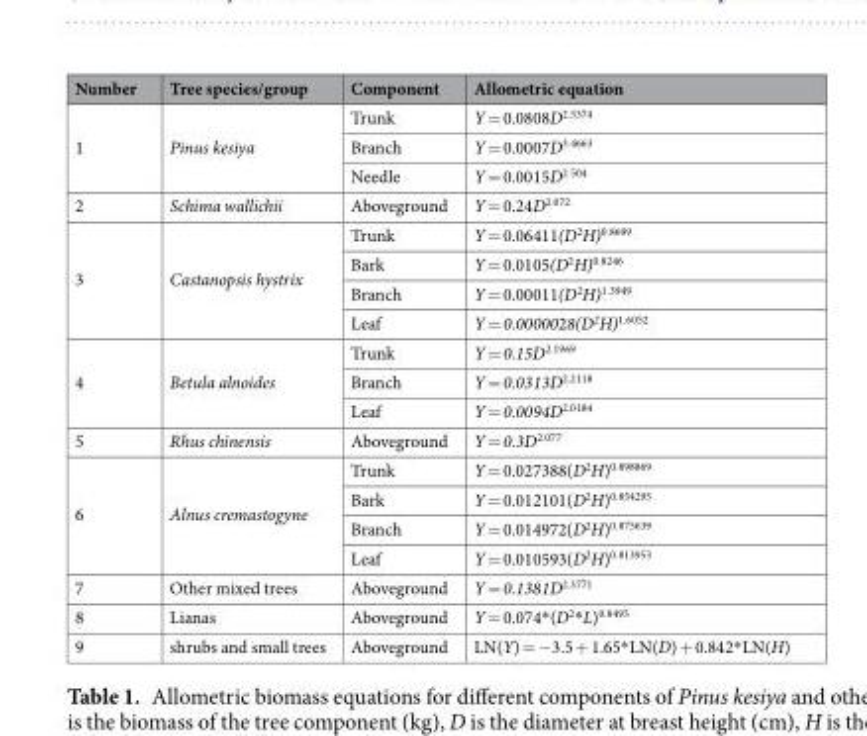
<table><thead><tr><td>Number</td><td>Tree species/group</td><td>Component</td><td>Allometric equation</td></tr></thead><tbody><tr><td rowspan="3">1</td><td rowspan="3">Pinus kesiya</td><td>Trunk</td><td>Y = 0.0808D<sup>2.5374</sup></td></tr><tr><td>Branch</td><td>Y = 0.0007D<sup>3.4663</sup></td></tr><tr><td>Needle</td><td>Y = 0.0015D<sup>2.504</sup></td></tr><tr><td>2</td><td>Schima wallichii</td><td>Aboveground</td><td>Y = 0.24D<sup>2.072</sup></td></tr><tr><td rowspan="4">3</td><td rowspan="4">Castanopsis hystrix</td><td>Trunk</td><td>Y = 0.06411(D<sup>2</sup>H)<sup>0.8699</sup></td></tr><tr><td>Bark</td><td>Y = 0.0105(D<sup>2</sup>H)<sup>0.8246</sup></td></tr><tr><td>Branch</td><td>Y = 0.00011(D<sup>2</sup>H)<sup>1.3949</sup></td></tr><tr><td>Leaf</td><td>Y = 0.0000028(D<sup>2</sup>H)<sup>1.6052</sup></td></tr><tr><td rowspan="3">4</td><td rowspan="3">Betula alnoides</td><td>Trunk</td><td>Y = 0.15D<sup>2.1969</sup></td></tr><tr><td>Branch</td><td>Y = 0.0313D<sup>2.2118</sup></td></tr><tr><td>Leaf</td><td>Y = 0.0094D<sup>2.0184</sup></td></tr><tr><td>5</td><td>Rhus chinensis</td><td>Aboveground</td><td>Y = 0.3D<sup>2.077</sup></td></tr><tr><td rowspan="4">6</td><td rowspan="4">Alnus cremastogyne</td><td>Trunk</td><td>Y = 0.027388(D<sup>2</sup>H)<sup>0.898869</sup></td></tr><tr><td>Bark</td><td>Y = 0.012101(D<sup>2</sup>H)<sup>0.854295</sup></td></tr><tr><td>Branch</td><td>Y = 0.014972(D<sup>2</sup>H)<sup>0.875639</sup></td></tr><tr><td>Leaf</td><td>Y = 0.010593(D<sup>2</sup>H)<sup>0.813953</sup></td></tr><tr><td>7</td><td>Other mixed trees</td><td>Aboveground</td><td>Y = 0.1381D<sup>2.3771</sup></td></tr><tr><td>8</td><td>Lianas</td><td>Aboveground</td><td>Y = 0.074*(D<sup>2</sup>*L)<sup>0.8495</sup></td></tr><tr><td>9</td><td>shrubs and small trees</td><td>Aboveground</td><td>LN(Y) = −3.5 + 1.65*LN(D) + 0.842*LN(H)</td></tr></tbody></table>